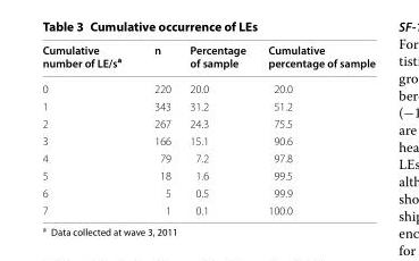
<table><thead><tr><td>Cumulative number of LE/s<sup>a</sup></td><td>n</td><td>Percentage of sample</td><td>Cumulative percentage of sample</td></tr></thead><tbody><tr><td>0</td><td>220</td><td>20.0</td><td>20.0</td></tr><tr><td>1</td><td>343</td><td>31.2</td><td>51.2</td></tr><tr><td>2</td><td>267</td><td>24.3</td><td>75.5</td></tr><tr><td>3</td><td>166</td><td>15.1</td><td>90.6</td></tr><tr><td>4</td><td>79</td><td>7.2</td><td>97.8</td></tr><tr><td>5</td><td>18</td><td>1.6</td><td>99.5</td></tr><tr><td>6</td><td>5</td><td>0.5</td><td>99.9</td></tr><tr><td>7</td><td>1</td><td>0.1</td><td>100.0</td></tr></tbody></table>